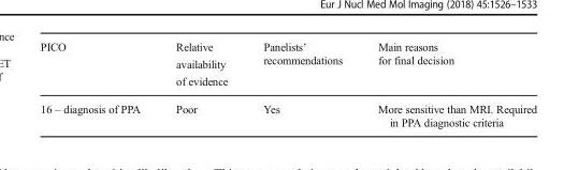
<table><thead><tr><td>PICO</td><td>Relative availability of evidence</td><td>Panelists’ recommendations</td><td>Main reasons for final decision</td></tr></thead><tbody><tr><td>16 – diagnosis of PPA</td><td>Poor</td><td>Yes</td><td>More sensitive than MRI. Required in PPA diagnostic criteria</td></tr></tbody></table>